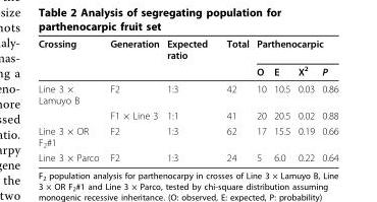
<table><thead><tr><td rowspan="2">Crossing</td><td rowspan="2">Generation</td><td rowspan="2">Expected ratio</td><td rowspan="2">Total</td><td colspan="4">Parthenocarpic</td></tr><tr><td>O</td><td>E</td><td>X<sup>2</sup></td><td>P</td></tr></thead><tbody><tr><td rowspan="2">Line 3 × Lamuyo B</td><td>F2</td><td>1:3</td><td>42</td><td>10</td><td>10.5</td><td>0.03</td><td>0.86</td></tr><tr><td>F1 × Line 3</td><td>1:1</td><td>41</td><td>20</td><td>20.5</td><td>0.02</td><td>0.88</td></tr><tr><td>Line 3 × OR F<sub>2</sub>#1</td><td>F2</td><td>1:3</td><td>62</td><td>17</td><td>15.5</td><td>0.19</td><td>0.66</td></tr><tr><td>Line 3 × Parco</td><td>F2</td><td>1:3</td><td>24</td><td>5</td><td>6.0</td><td>0.22</td><td>0.64</td></tr></tbody></table>